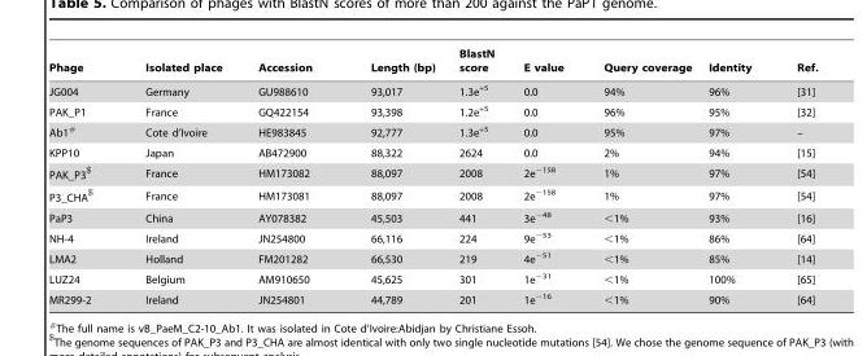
<table><thead><tr><td>Phage</td><td>Isolated place</td><td>Accession</td><td>Length (bp)</td><td>BlastN score</td><td>E value</td><td>Query coverage</td><td>Identity</td><td>Ref.</td></tr></thead><tbody><tr><td>JG004</td><td>Germany</td><td>GU988610</td><td>93,017</td><td>1.3e<sup>+5</sup></td><td>0.0</td><td>94%</td><td>96%</td><td>[31]</td></tr><tr><td>PAK_P1</td><td>France</td><td>GQ422154</td><td>93,398</td><td>1.2e<sup>+5</sup></td><td>0.0</td><td>96%</td><td>95%</td><td>[32]</td></tr><tr><td>Ab1#</td><td>Cote d’Ivoire</td><td>HE983845</td><td>92,777</td><td>1.3e<sup>+5</sup></td><td>0.0</td><td>95%</td><td>97%</td><td>–</td></tr><tr><td>KPP10</td><td>Japan</td><td>AB472900</td><td>88,322</td><td>2624</td><td>0.0</td><td>2%</td><td>94%</td><td>[15]</td></tr><tr><td>PAK_P3$</td><td>France</td><td>HM173082</td><td>88,097</td><td>2008</td><td>2e<sup>−158</sup></td><td>1%</td><td>97%</td><td>[54]</td></tr><tr><td>P3_CHA$</td><td>France</td><td>HM173081</td><td>88,097</td><td>2008</td><td>2e<sup>−158</sup></td><td>1%</td><td>97%</td><td>[54]</td></tr><tr><td>PaP3</td><td>China</td><td>AY078382</td><td>45,503</td><td>441</td><td>3e<sup>−48</sup></td><td>&lt;1%</td><td>93%</td><td>[16]</td></tr><tr><td>NH-4</td><td>Ireland</td><td>JN254800</td><td>66,116</td><td>224</td><td>9e<sup>−53</sup></td><td>&lt;1%</td><td>86%</td><td>[64]</td></tr><tr><td>LMA2</td><td>Holland</td><td>FM201282</td><td>66,530</td><td>219</td><td>4e<sup>−51</sup></td><td>&lt;1%</td><td>85%</td><td>[14]</td></tr><tr><td>LUZ24</td><td>Belgium</td><td>AM910650</td><td>45,625</td><td>301</td><td>1e<sup>−31</sup></td><td>&lt;1%</td><td>100%</td><td>[65]</td></tr><tr><td>MR299-2</td><td>Ireland</td><td>JN254801</td><td>44,789</td><td>201</td><td>1e<sup>−16</sup></td><td>&lt;1%</td><td>90%</td><td>[64]</td></tr></tbody></table>